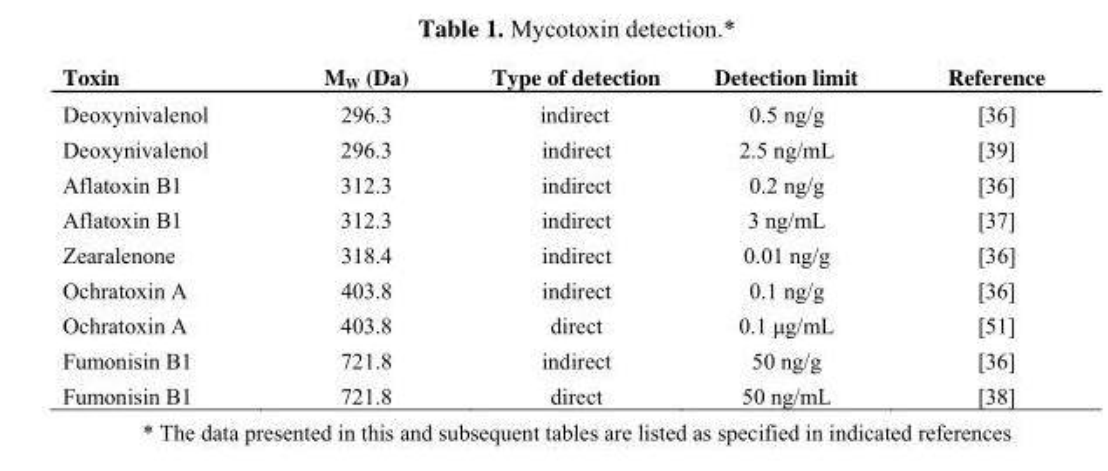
<table><thead><tr><td>Toxin</td><td>M<sub>W</sub> (Da)</td><td>Type of detection</td><td>Detection limit</td><td>Reference</td></tr></thead><tbody><tr><td>Deoxynivalenol</td><td>296.3</td><td>indirect</td><td>0.5 ng/g</td><td>[36]</td></tr><tr><td>Deoxynivalenol</td><td>296.3</td><td>indirect</td><td>2.5 ng/mL</td><td>[39]</td></tr><tr><td>Aflatoxin B1</td><td>312.3</td><td>indirect</td><td>0.2 ng/g</td><td>[36]</td></tr><tr><td>Aflatoxin B1</td><td>312.3</td><td>indirect</td><td>3 ng/mL</td><td>[37]</td></tr><tr><td>Zearalenone</td><td>318.4</td><td>indirect</td><td>0.01 ng/g</td><td>[36]</td></tr><tr><td>Ochratoxin A</td><td>403.8</td><td>indirect</td><td>0.1 ng/g</td><td>[36]</td></tr><tr><td>Ochratoxin A</td><td>403.8</td><td>direct</td><td>0.1 μg/mL</td><td>[51]</td></tr><tr><td>Fumonisin B1</td><td>721.8</td><td>indirect</td><td>50 ng/g</td><td>[36]</td></tr><tr><td>Fumonisin B1</td><td>721.8</td><td>direct</td><td>50 ng/mL</td><td>[38]</td></tr></tbody></table>